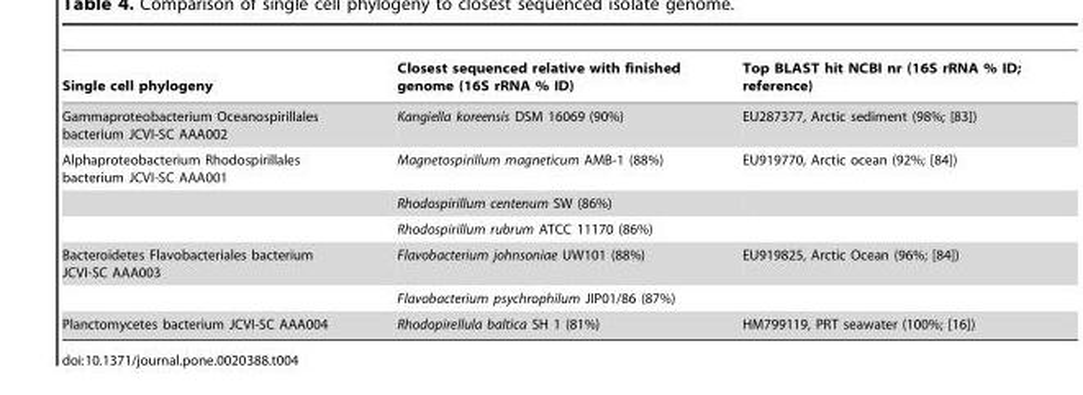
<table><thead><tr><td>Single cell phylogeny</td><td>Closest sequenced relative with finished genome (16S rRNA % ID)</td><td>Top BLAST hit NCBI nr (16S rRNA % ID; reference)</td></tr></thead><tbody><tr><td>Gammaproteobacterium Oceanospirillales bacterium JCVI-SC AAA002</td><td>Kangiella koreensis DSM 16069 (90%)</td><td>EU287377, Arctic sediment (98%; [83])</td></tr><tr><td rowspan="3">Alphaproteobacterium Rhodospirillales bacterium JCVI-SC AAA001</td><td>Magnetospirillum magneticum AMB-1 (88%)</td><td>EU919770, Arctic ocean (92%; [84])</td></tr><tr><td>Rhodospirillum centenum SW (86%)</td><td></td></tr><tr><td>Rhodospirillum rubrum ATCC 11170 (86%)</td><td></td></tr><tr><td rowspan="2">Bacteroidetes Flavobacteriales bacterium JCVI-SC AAA003</td><td>Flavobacterium johnsoniae UW101 (88%)</td><td>EU919825, Arctic Ocean (96%; [84])</td></tr><tr><td>Flavobacterium psychrophilum JIP01/86 (87%)</td><td></td></tr><tr><td>Planctomycetes bacterium JCVI-SC AAA004</td><td>Rhodopirellula baltica SH 1 (81%)</td><td>HM799119, PRT seawater (100%; [16])</td></tr></tbody></table>